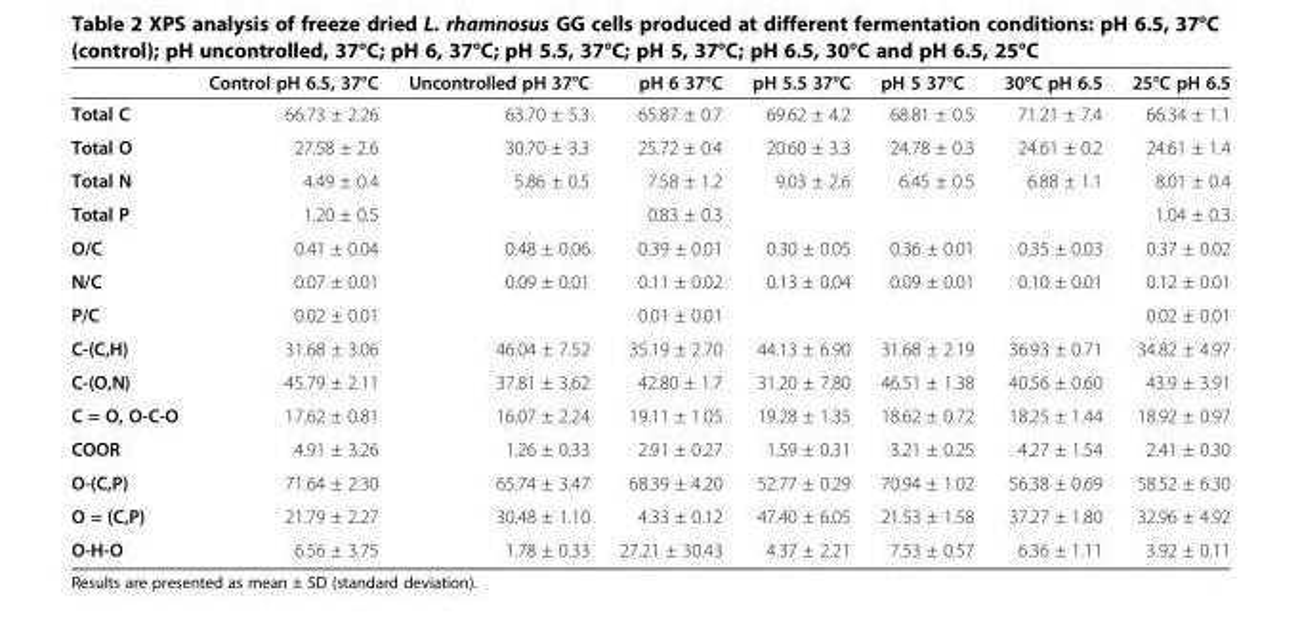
<table><thead><tr><td></td><td>Control pH 6.5, 37°C</td><td>Uncontrolled pH 37°C</td><td>pH 6 37°C</td><td>pH 5.5 37°C</td><td>pH 5 37°C</td><td>30°C pH 6.5</td><td>25°C pH 6.5</td></tr></thead><tbody><tr><td>Total C</td><td>66.73 ± 2.26</td><td>63.70 ± 5.3</td><td>65.87 ± 0.7</td><td>69.62 ± 4.2</td><td>68.81 ± 0.5</td><td>71.21 ± 7.4</td><td>66.34 ± 1.1</td></tr><tr><td>Total O</td><td>27.58 ± 2.6</td><td>30.70 ± 3.3</td><td>25.72 ± 0.4</td><td>20.60 ± 3.3</td><td>24.78 ± 0.3</td><td>24.61 ± 0.2</td><td>24.61 ± 1.4</td></tr><tr><td>Total N</td><td>4.49 ± 0.4</td><td>5.86 ± 0.5</td><td>7.58 ± 1.2</td><td>9.03 ± 2.6</td><td>6.45 ± 0.5</td><td>6.88 ± 1.1</td><td>8.01 ± 0.4</td></tr><tr><td>Total P</td><td>1.20 ± 0.5</td><td></td><td>0.83 ± 0.3</td><td></td><td></td><td></td><td>1.04 ± 0.3</td></tr><tr><td>O/C</td><td>0.41 ± 0.04</td><td>0.48 ± 0.06</td><td>0.39 ± 0.01</td><td>0.30 ± 0.05</td><td>0.36 ± 0.01</td><td>0.35 ± 0.03</td><td>0.37 ± 0.02</td></tr><tr><td>N/C</td><td>0.07 ± 0.01</td><td>0.09 ± 0.01</td><td>0.11 ± 0.02</td><td>0.13 ± 0.04</td><td>0.09 ± 0.01</td><td>0.10 ± 0.01</td><td>0.12 ± 0.01</td></tr><tr><td>P/C</td><td>0.02 ± 0.01</td><td></td><td>0.01 ± 0.01</td><td></td><td></td><td></td><td>0.02 ± 0.01</td></tr><tr><td>C-(C,H)</td><td>31.68 ± 3.06</td><td>46.04 ± 7.52</td><td>35.19 ± 2.70</td><td>44.13 ± 6.90</td><td>31.68 ± 2.19</td><td>36.93 ± 0.71</td><td>34.82 ± 4.97</td></tr><tr><td>C-(O,N)</td><td>45.79 ± 2.11</td><td>37.81 ± 3.62</td><td>42.80 ± 1.7</td><td>31.20 ± 7.80</td><td>46.51 ± 1.38</td><td>40.56 ± 0.60</td><td>43.9 ± 3.91</td></tr><tr><td>C = O, O-C-O</td><td>17.62 ± 0.81</td><td>16.07 ± 2.24</td><td>19.11 ± 1.05</td><td>19.28 ± 1.35</td><td>18.62 ± 0.72</td><td>18.25 ± 1.44</td><td>18.92 ± 0.97</td></tr><tr><td>COOR</td><td>4.91 ± 3.26</td><td>1.26 ± 0.33</td><td>2.91 ± 0.27</td><td>1.59 ± 0.31</td><td>3.21 ± 0.25</td><td>4.27 ± 1.54</td><td>2.41 ± 0.30</td></tr><tr><td>O-(C,P)</td><td>71.64 ± 2.30</td><td>65.74 ± 3.47</td><td>68.39 ± 4.20</td><td>52.77 ± 0.29</td><td>70.94 ± 1.02</td><td>56.38 ± 0.69</td><td>58.52 ± 6.30</td></tr><tr><td>O = (C,P)</td><td>21.79 ± 2.27</td><td>30.48 ± 1.10</td><td>4.33 ± 0.12</td><td>47.40 ± 6.05</td><td>21.53 ± 1.58</td><td>37.27 ± 1.80</td><td>32.96 ± 4.92</td></tr><tr><td>O-H-O</td><td>6.56 ± 3.75</td><td>1.78 ± 0.33</td><td>27.21 ± 30.43</td><td>4.37 ± 2.21</td><td>7.53 ± 0.57</td><td>6.36 ± 1.11</td><td>3.92 ± 0.11</td></tr></tbody></table>